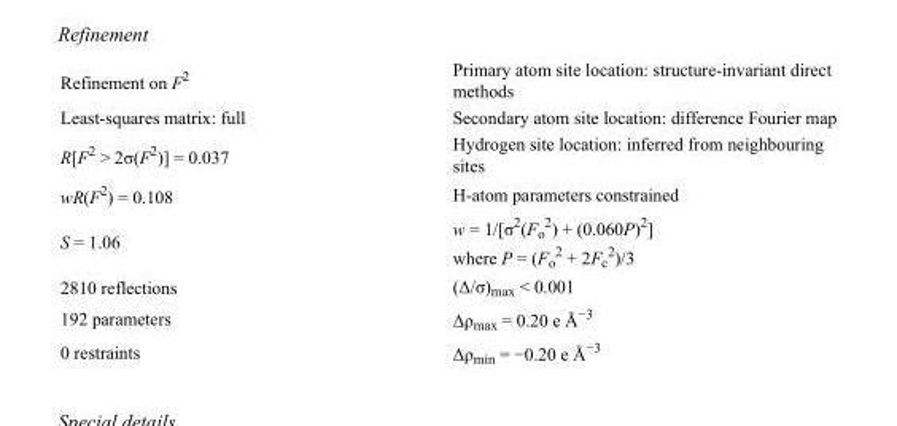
<table><tbody><tr><td>Refinement on F<sup>2</sup></td><td>Primary atom site location: structure-invariant direct methods</td></tr><tr><td>Least-squares matrix: full</td><td>Secondary atom site location: difference Fourier map</td></tr><tr><td>R[F<sup>2</sup> &gt; 2σ(F<sup>2</sup>)] = 0.037</td><td>Hydrogen site location: inferred from neighbouring sites</td></tr><tr><td>wR(F<sup>2</sup>) = 0.108</td><td>H-atom parameters constrained</td></tr><tr><td>S = 1.06</td><td>w = 1/[σ<sup>2</sup>(F<sub>o</sub> <sup>2</sup>) + (0.060P)<sup>2</sup>] where P = (F<sub>o</sub> <sup>2</sup> + 2F<sub>c</sub> <sup>2</sup>)/3</td></tr><tr><td>2810 reflections</td><td>(Δ/σ)<sub>max</sub> &lt; 0.001</td></tr><tr><td>192 parameters</td><td>Δρ<sub>max</sub> = 0.20 e Å<sup>−3</sup></td></tr><tr><td>0 restraints</td><td>Δρ<sub>min</sub> = −0.20 e Å<sup>−3</sup></td></tr></tbody></table>